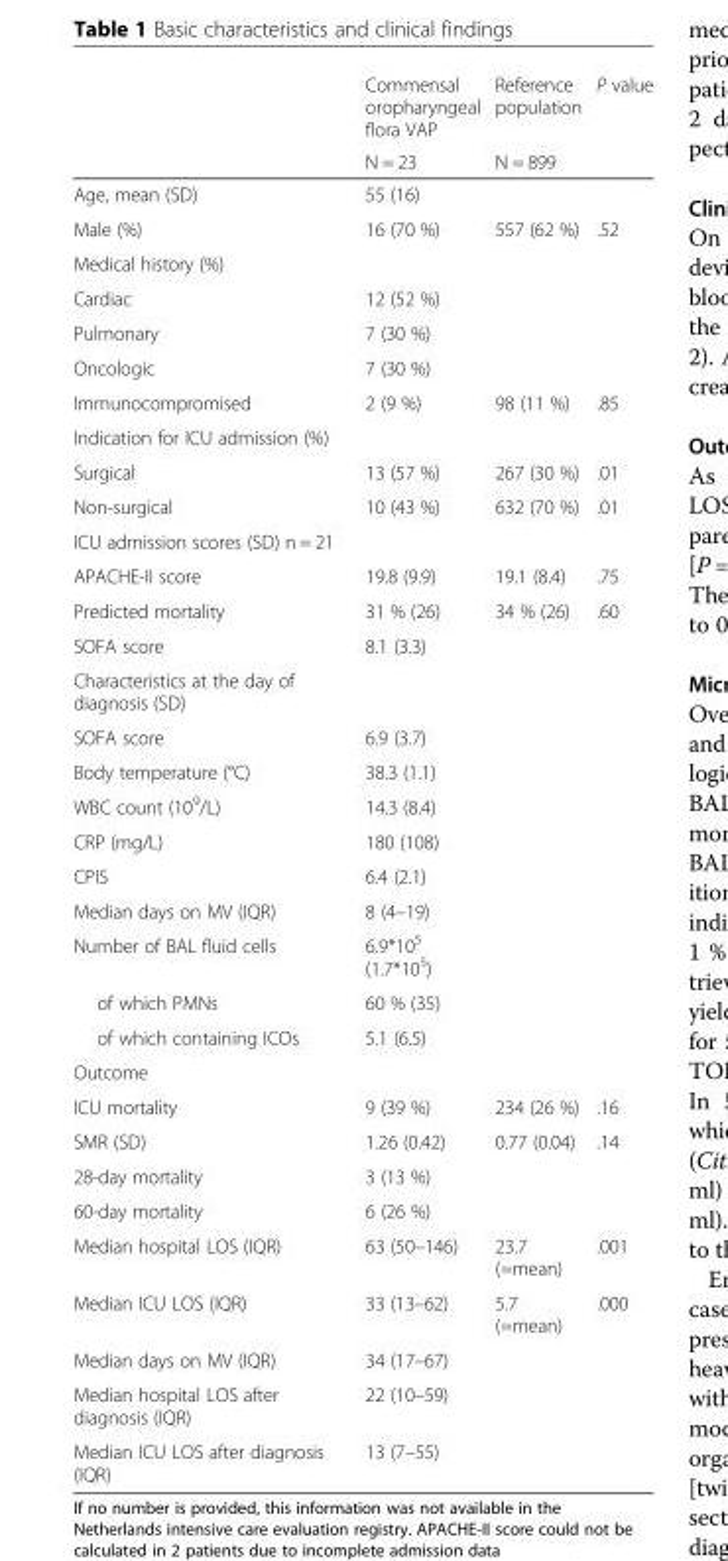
<table><thead><tr><td rowspan="2"></td><td rowspan="2">Commensal oropharyngeal flora VAP N = 23</td><td rowspan="2">Reference population N = 899</td><td rowspan="2">P value</td></tr><tr></tr></thead><tbody><tr><td>Age, mean (SD)</td><td>55 (16)</td><td></td><td></td></tr><tr><td>Male (%)</td><td>16 (70 %)</td><td>557 (62 %)</td><td>.52</td></tr><tr><td colspan="4">Medical history (%)</td></tr><tr><td>Cardiac</td><td>12 (52 %)</td><td></td><td></td></tr><tr><td>Pulmonary</td><td>7 (30 %)</td><td></td><td></td></tr><tr><td>Oncologic</td><td>7 (30 %)</td><td></td><td></td></tr><tr><td>Immunocompromised</td><td>2 (9 %)</td><td>98 (11 %)</td><td>.85</td></tr><tr><td colspan="4">Indication for ICU admission (%)</td></tr><tr><td>Surgical</td><td>13 (57 %)</td><td>267 (30 %)</td><td>.01</td></tr><tr><td>Non-surgical</td><td>10 (43 %)</td><td>632 (70 %)</td><td>.01</td></tr><tr><td colspan="4">ICU admission scores (SD) n = 21</td></tr><tr><td>APACHE-II score</td><td>19.8 (9.9)</td><td>19.1 (8.4)</td><td>.75</td></tr><tr><td>Predicted mortality</td><td>31 % (26)</td><td>34 % (26)</td><td>.60</td></tr><tr><td>SOFA score</td><td>8.1 (3.3)</td><td></td><td></td></tr><tr><td colspan="4">Characteristics at the day of diagnosis (SD)</td></tr><tr><td>SOFA score</td><td>6.9 (3.7)</td><td></td><td></td></tr><tr><td>Body temperature (°C)</td><td>38.3 (1.1)</td><td></td><td></td></tr><tr><td>WBC count (10<sup>9</sup>/L)</td><td>14.3 (8.4)</td><td></td><td></td></tr><tr><td>CRP (mg/L)</td><td>180 (108)</td><td></td><td></td></tr><tr><td>CPIS</td><td>6.4 (2.1)</td><td></td><td></td></tr><tr><td>Median days on MV (IQR)</td><td>8 (4–19)</td><td></td><td></td></tr><tr><td>Number of BAL fluid cells</td><td>6.9*10<sup>5</sup> (1.7*10<sup>5</sup>)</td><td></td><td></td></tr><tr><td>of which PMNs</td><td>60 % (35)</td><td></td><td></td></tr><tr><td>of which containing ICOs</td><td>5.1 (6.5)</td><td></td><td></td></tr><tr><td colspan="4">Outcome</td></tr><tr><td>ICU mortality</td><td>9 (39 %)</td><td>234 (26 %)</td><td>.16</td></tr><tr><td>SMR (SD)</td><td>1.26 (0.42)</td><td>0.77 (0.04)</td><td>.14</td></tr><tr><td>28-day mortality</td><td>3 (13 %)</td><td></td><td></td></tr><tr><td>60-day mortality</td><td>6 (26 %)</td><td></td><td></td></tr><tr><td>Median hospital LOS (IQR)</td><td>63 (50–146)</td><td>23.7 (=mean)</td><td>.001</td></tr><tr><td>Median ICU LOS (IQR)</td><td>33 (13–62)</td><td>5.7 (=mean)</td><td>.000</td></tr><tr><td>Median days on MV (IQR)</td><td>34 (17–67)</td><td></td><td></td></tr><tr><td>Median hospital LOS after diagnosis (IQR)</td><td>22 (10–59)</td><td></td><td></td></tr><tr><td>Median ICU LOS after diagnosis (IQR)</td><td>13 (7–55)</td><td></td><td></td></tr></tbody></table>